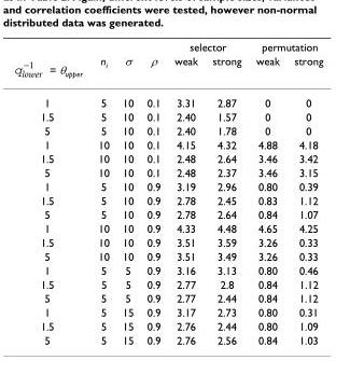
<table><thead><tr><td rowspan="2">= θupper</td><td rowspan="2">n<sub>i</sub></td><td rowspan="2">σ</td><td rowspan="2">ρ</td><td colspan="2">selector</td><td colspan="2">permutation</td></tr><tr><td>weak</td><td>strong</td><td>weak</td><td>strong</td></tr></thead><tbody><tr><td>1</td><td>5</td><td>10</td><td>0.1</td><td>3.31</td><td>2.87</td><td>0</td><td>0</td></tr><tr><td>1.5</td><td>5</td><td>10</td><td>0.1</td><td>2.40</td><td>1.57</td><td>0</td><td>0</td></tr><tr><td>5</td><td>5</td><td>10</td><td>0.1</td><td>2.40</td><td>1.78</td><td>0</td><td>0</td></tr><tr><td>1</td><td>10</td><td>10</td><td>0.1</td><td>4.15</td><td>4.32</td><td>4.88</td><td>4.18</td></tr><tr><td>1.5</td><td>10</td><td>10</td><td>0.1</td><td>2.48</td><td>2.64</td><td>3.46</td><td>3.42</td></tr><tr><td>5</td><td>10</td><td>10</td><td>0.1</td><td>2.48</td><td>2.37</td><td>3.46</td><td>3.15</td></tr><tr><td>1</td><td>5</td><td>10</td><td>0.9</td><td>3.19</td><td>2.96</td><td>0.80</td><td>0.39</td></tr><tr><td>1.5</td><td>5</td><td>10</td><td>0.9</td><td>2.78</td><td>2.45</td><td>0.83</td><td>1.12</td></tr><tr><td>5</td><td>5</td><td>10</td><td>0.9</td><td>2.78</td><td>2.64</td><td>0.84</td><td>1.07</td></tr><tr><td>1</td><td>10</td><td>10</td><td>0.9</td><td>4.33</td><td>4.48</td><td>4.65</td><td>4.25</td></tr><tr><td>1.5</td><td>10</td><td>10</td><td>0.9</td><td>3.51</td><td>3.59</td><td>3.26</td><td>0.33</td></tr><tr><td>5</td><td>10</td><td>10</td><td>0.9</td><td>3.51</td><td>3.49</td><td>3.26</td><td>0.33</td></tr><tr><td>1</td><td>5</td><td>5</td><td>0.9</td><td>3.16</td><td>3.13</td><td>0.80</td><td>0.46</td></tr><tr><td>1.5</td><td>5</td><td>5</td><td>0.9</td><td>2.77</td><td>2.8</td><td>0.84</td><td>1.12</td></tr><tr><td>5</td><td>5</td><td>5</td><td>0.9</td><td>2.77</td><td>2.44</td><td>0.84</td><td>1.12</td></tr><tr><td>1</td><td>5</td><td>15</td><td>0.9</td><td>3.17</td><td>2.73</td><td>0.80</td><td>0.31</td></tr><tr><td>1.5</td><td>5</td><td>15</td><td>0.9</td><td>2.76</td><td>2.44</td><td>0.80</td><td>1.09</td></tr><tr><td>5</td><td>5</td><td>15</td><td>0.9</td><td>2.76</td><td>2.56</td><td>0.84</td><td>1.03</td></tr></tbody></table>